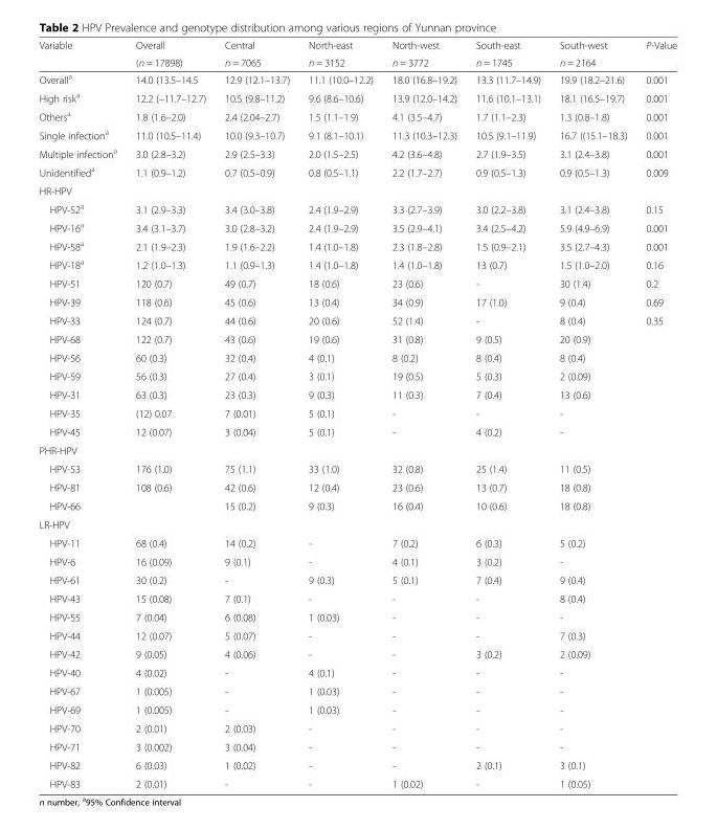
<table><thead><tr><td rowspan="2">Variable</td><td rowspan="2">Overall (n = 17898)</td><td rowspan="2">Central n = 7065</td><td rowspan="2">North-east n = 3152</td><td rowspan="2">North-west n = 3772</td><td rowspan="2">South-east n = 1745</td><td rowspan="2">South-west n = 2164</td><td rowspan="2">P-Value</td></tr><tr></tr></thead><tbody><tr><td>Overall<sup>a</sup></td><td>14.0 (13.5–14.5</td><td>12.9 (12.1–13.7)</td><td>11.1 (10.0–12.2)</td><td>18.0 (16.8–19.2)</td><td>13.3 (11.7–14.9)</td><td>19.9 (18.2–21.6)</td><td>0.001</td></tr><tr><td>High risk<sup>a</sup></td><td>12.2 (–11.7–12.7)</td><td>10.5 (9.8–11.2)</td><td>9.6 (8.6–10.6)</td><td>13.9 (12.0–14.2)</td><td>11.6 (10.1–13.1)</td><td>18.1 (16.5–19.7)</td><td>0.001</td></tr><tr><td>Others<sup>a</sup></td><td>1.8 (1.6–2.0)</td><td>2.4 (2.04–2.7)</td><td>1.5 (1.1–1.9)</td><td>4.1 (3.5–4.7)</td><td>1.7 (1.1–2.3)</td><td>1.3 (0.8–1.8)</td><td>0.001</td></tr><tr><td>Single infection<sup>a</sup></td><td>11.0 (10.5–11.4)</td><td>10.0 (9.3–10.7)</td><td>9.1 (8.1–10.1)</td><td>11.3 (10.3–12.3)</td><td>10.5 (9.1–11.9)</td><td>16.7 ((15.1–18.3)</td><td>0.001</td></tr><tr><td>Multiple infection<sup>a</sup></td><td>3.0 (2.8–3.2)</td><td>2.9 (2.5–3.3)</td><td>2.0 (1.5–2.5)</td><td>4.2 (3.6–4.8)</td><td>2.7 (1.9–3.5)</td><td>3.1 (2.4–3.8)</td><td>0.001</td></tr><tr><td>Unidentified<sup>a</sup></td><td>1.1 (0.9–1.2)</td><td>0.7 (0.5–0.9)</td><td>0.8 (0.5–1.1)</td><td>2.2 (1.7–2.7)</td><td>0.9 (0.5–1.3)</td><td>0.9 (0.5–1.3)</td><td>0.009</td></tr><tr><td colspan="8">HR-HPV</td></tr><tr><td>HPV-52<sup>a</sup></td><td>3.1 (2.9–3.3)</td><td>3.4 (3.0–3.8)</td><td>2.4 (1.9–2.9)</td><td>3.3 (2.7–3.9)</td><td>3.0 (2.2–3.8)</td><td>3.1 (2.4–3.8)</td><td>0.15</td></tr><tr><td>HPV-16<sup>a</sup></td><td>3.4 (3.1–3.7)</td><td>3.0 (2.8–3.2)</td><td>2.4 (1.9–2.9)</td><td>3.5 (2.9–4.1)</td><td>3.4 (2.5–4.2)</td><td>5.9 (4.9–6.9)</td><td>0.001</td></tr><tr><td>HPV-58<sup>a</sup></td><td>2.1 (1.9–2.3)</td><td>1.9 (1.6–2.2)</td><td>1.4 (1.0–1.8)</td><td>2.3 (1.8–2.8)</td><td>1.5 (0.9–2.1)</td><td>3.5 (2.7–4.3)</td><td>0.001</td></tr><tr><td>HPV-18<sup>a</sup></td><td>1.2 (1.0–1.3)</td><td>1.1 (0.9–1.3)</td><td>1.4 (1.0–1.8)</td><td>1.4 (1.0–1.8)</td><td>13 (0.7)</td><td>1.5 (1.0–2.0)</td><td>0.16</td></tr><tr><td>HPV-51</td><td>120 (0.7)</td><td>49 (0.7)</td><td>18 (0.6)</td><td>23 (0.6)</td><td>-</td><td>30 (1.4)</td><td>0.2</td></tr><tr><td>HPV-39</td><td>118 (0.6)</td><td>45 (0.6)</td><td>13 (0.4)</td><td>34 (0.9)</td><td>17 (1.0)</td><td>9 (0.4)</td><td>0.69</td></tr><tr><td>HPV-33</td><td>124 (0.7)</td><td>44 (0.6)</td><td>20 (0.6)</td><td>52 (1.4)</td><td>-</td><td>8 (0.4)</td><td>0.35</td></tr><tr><td>HPV-68</td><td>122 (0.7)</td><td>43 (0.6)</td><td>19 (0.6)</td><td>31 (0.8)</td><td>9 (0.5)</td><td>20 (0.9)</td><td></td></tr><tr><td>HPV-56</td><td>60 (0.3)</td><td>32 (0.4)</td><td>4 (0.1)</td><td>8 (0.2)</td><td>8 (0.4)</td><td>8 (0.4)</td><td></td></tr><tr><td>HPV-59</td><td>56 (0.3)</td><td>27 (0.4)</td><td>3 (0.1)</td><td>19 (0.5)</td><td>5 (0.3)</td><td>2 (0.09)</td><td></td></tr><tr><td>HPV-31</td><td>63 (0.3)</td><td>23 (0.3)</td><td>9 (0.3)</td><td>11 (0.3)</td><td>7 (0.4)</td><td>13 (0.6)</td><td></td></tr><tr><td>HPV-35</td><td>(12) 0.07</td><td>7 (0.01)</td><td>5 (0.1)</td><td>-</td><td>-</td><td>-</td><td></td></tr><tr><td>HPV-45</td><td>12 (0.07)</td><td>3 (0.04)</td><td>5 (0.1)</td><td>-</td><td>4 (0.2)</td><td>-</td><td></td></tr><tr><td colspan="8">PHR-HPV</td></tr><tr><td>HPV-53</td><td>176 (1.0)</td><td>75 (1.1)</td><td>33 (1.0)</td><td>32 (0.8)</td><td>25 (1.4)</td><td>11 (0.5)</td><td></td></tr><tr><td>HPV-81</td><td>108 (0.6)</td><td>42 (0.6)</td><td>12 (0.4)</td><td>23 (0.6)</td><td>13 (0.7)</td><td>18 (0.8)</td><td></td></tr><tr><td>HPV-66</td><td></td><td>15 (0.2)</td><td>9 (0.3)</td><td>16 (0.4)</td><td>10 (0.6)</td><td>18 (0.8)</td><td></td></tr><tr><td colspan="8">LR-HPV</td></tr><tr><td>HPV-11</td><td>68 (0.4)</td><td>14 (0.2)</td><td>-</td><td>7 (0.2)</td><td>6 (0.3)</td><td>5 (0.2)</td><td></td></tr><tr><td>HPV-6</td><td>16 (0.09)</td><td>9 (0.1)</td><td>-</td><td>4 (0.1)</td><td>3 (0.2)</td><td>-</td><td></td></tr><tr><td>HPV-61</td><td>30 (0.2)</td><td>-</td><td>9 (0.3)</td><td>5 (0.1)</td><td>7 (0.4)</td><td>9 (0.4)</td><td></td></tr><tr><td>HPV-43</td><td>15 (0.08)</td><td>7 (0.1)</td><td>-</td><td>-</td><td>-</td><td>8 (0.4)</td><td></td></tr><tr><td>HPV-55</td><td>7 (0.04)</td><td>6 (0.08)</td><td>1 (0.03)</td><td>-</td><td>-</td><td>-</td><td></td></tr><tr><td>HPV-44</td><td>12 (0.07)</td><td>5 (0.07)</td><td>-</td><td>-</td><td>-</td><td>7 (0.3)</td><td></td></tr><tr><td>HPV-42</td><td>9 (0.05)</td><td>4 (0.06)</td><td>-</td><td>-</td><td>3 (0.2)</td><td>2 (0.09)</td><td></td></tr><tr><td>HPV-40</td><td>4 (0.02)</td><td>-</td><td>4 (0.1)</td><td>-</td><td>-</td><td>-</td><td></td></tr><tr><td>HPV-67</td><td>1 (0.005)</td><td>-</td><td>1 (0.03)</td><td>-</td><td>-</td><td>-</td><td></td></tr><tr><td>HPV-69</td><td>1 (0.005)</td><td>-</td><td>1 (0.03)</td><td>-</td><td>-</td><td>-</td><td></td></tr><tr><td>HPV-70</td><td>2 (0.01)</td><td>2 (0.03)</td><td>-</td><td>-</td><td>-</td><td>-</td><td></td></tr><tr><td>HPV-71</td><td>3 (0.002)</td><td>3 (0.04)</td><td>-</td><td>-</td><td>-</td><td>-</td><td></td></tr><tr><td>HPV-82</td><td>6 (0.03)</td><td>1 (0.02)</td><td>-</td><td>-</td><td>2 (0.1)</td><td>3 (0.1)</td><td></td></tr><tr><td>HPV-83</td><td>2 (0.01)</td><td>-</td><td>-</td><td>1 (0.02)</td><td>-</td><td>1 (0.05)</td><td></td></tr></tbody></table>